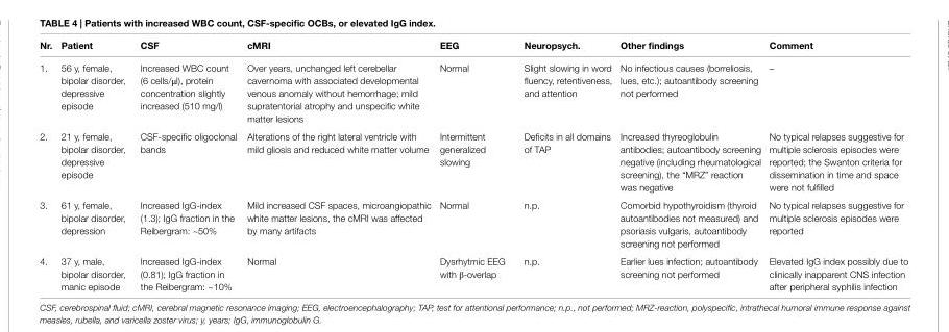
<table><thead><tr><td>nr.</td><td>Patient</td><td>csF</td><td>cMri</td><td>eeg</td><td>neuropsych.</td><td>Other findings</td><td>comment</td></tr></thead><tbody><tr><td>1.</td><td>56 y, female, bipolar disorder, depressive episode</td><td>Increased WBC count (6 cells/μl), protein concentration slightly increased (510 mg/l)</td><td>Over years, unchanged left cerebellar cavernoma with associated developmental venous anomaly without hemorrhage; mild supratentorial atrophy and unspecific white matter lesions</td><td>Normal</td><td>Slight slowing in word fluency, retentiveness, and attention</td><td>No infectious causes (borreliosis, lues, etc.); autoantibody screening not performed</td><td>–</td></tr><tr><td>2.</td><td>21 y, female, bipolar disorder, depressive episode</td><td>CSF-specific oligoclonal bands</td><td>Alterations of the right lateral ventricle with mild gliosis and reduced white matter volume</td><td>Intermittent generalized slowing</td><td>Deficits in all domains of TAP</td><td>Increased thyreoglobulin antibodies; autoantibody screening negative (including rheumatological screening), the “MRZ” reaction was negative</td><td>No typical relapses suggestive for multiple sclerosis episodes were reported; the Swanton criteria for dissemination in time and space were not fulfilled</td></tr><tr><td>3.</td><td>61 y, female, bipolar disorder, depression</td><td>Increased IgG-index (1.3); IgG fraction in the Reibergram: ~50%</td><td>Mild increased CSF spaces, microangiopathic white matter lesions, the cMRI was affected by many artifacts</td><td>Normal</td><td>n.p.</td><td>Comorbid hypothyroidism (thyroid autoantibodies not measured) and psoriasis vulgaris, autoantibody screening not performed</td><td>No typical relapses suggestive for multiple sclerosis episodes were reported</td></tr><tr><td>4.</td><td>37 y, male, bipolar disorder, manic episode</td><td>Increased IgG-index (0.81); IgG fraction in the Reibergram: ~10%</td><td>Normal</td><td>Dysrhytmic EEG with β-overlap</td><td>n.p.</td><td>Earlier lues infection; autoantibody screening not performed</td><td>Elevated IgG index possibly due to clinically inapparent CNS infection after peripheral syphilis infection</td></tr></tbody></table>